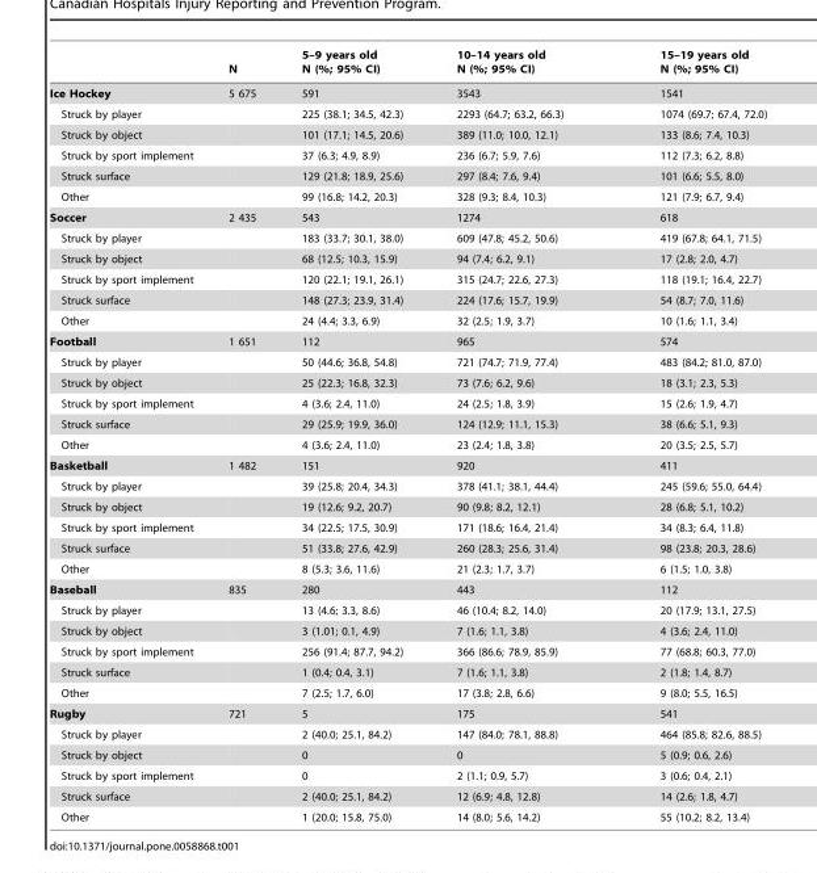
<table><thead><tr><td></td><td>N</td><td>5–9 years old N (%; 95% CI)</td><td>10–14 years old N (%; 95% CI)</td><td>15–19 years old N (%; 95% CI)</td></tr></thead><tbody><tr><td>Ice Hockey</td><td>5 675</td><td>591</td><td>3543</td><td>1541</td></tr><tr><td>Struck by player</td><td></td><td>225 (38.1; 34.5, 42.3)</td><td>2293 (64.7; 63.2, 66.3)</td><td>1074 (69.7; 67.4, 72.0)</td></tr><tr><td>Struck by object</td><td></td><td>101 (17.1; 14.5, 20.6)</td><td>389 (11.0; 10.0, 12.1)</td><td>133 (8.6; 7.4, 10.3)</td></tr><tr><td>Struck by sport implement</td><td></td><td>37 (6.3; 4.9, 8.9)</td><td>236 (6.7; 5.9, 7.6)</td><td>112 (7.3; 6.2, 8.8)</td></tr><tr><td>Struck surface</td><td></td><td>129 (21.8; 18.9, 25.6)</td><td>297 (8.4; 7.6, 9.4)</td><td>101 (6.6; 5.5, 8.0)</td></tr><tr><td>Other</td><td></td><td>99 (16.8; 14.2, 20.3)</td><td>328 (9.3; 8.4, 10.3)</td><td>121 (7.9; 6.7, 9.4)</td></tr><tr><td>Soccer</td><td>2 435</td><td>543</td><td>1274</td><td>618</td></tr><tr><td>Struck by player</td><td></td><td>183 (33.7; 30.1, 38.0)</td><td>609 (47.8; 45.2, 50.6)</td><td>419 (67.8; 64.1, 71.5)</td></tr><tr><td>Struck by object</td><td></td><td>68 (12.5; 10.3, 15.9)</td><td>94 (7.4; 6.2, 9.1)</td><td>17 (2.8; 2.0, 4.7)</td></tr><tr><td>Struck by sport implement</td><td></td><td>120 (22.1; 19.1, 26.1)</td><td>315 (24.7; 22.6, 27.3)</td><td>118 (19.1; 16.4, 22.7)</td></tr><tr><td>Struck surface</td><td></td><td>148 (27.3; 23.9, 31.4)</td><td>224 (17.6; 15.7, 19.9)</td><td>54 (8.7; 7.0, 11.6)</td></tr><tr><td>Other</td><td></td><td>24 (4.4; 3.3, 6.9)</td><td>32 (2.5; 1.9, 3.7)</td><td>10 (1.6; 1.1, 3.4)</td></tr><tr><td>Football</td><td>1 651</td><td>112</td><td>965</td><td>574</td></tr><tr><td>Struck by player</td><td></td><td>50 (44.6; 36.8, 54.8)</td><td>721 (74.7; 71.9, 77.4)</td><td>483 (84.2; 81.0, 87.0)</td></tr><tr><td>Struck by object</td><td></td><td>25 (22.3; 16.8, 32.3)</td><td>73 (7.6; 6.2, 9.6)</td><td>18 (3.1; 2.3, 5.3)</td></tr><tr><td>Struck by sport implement</td><td></td><td>4 (3.6; 2.4, 11.0)</td><td>24 (2.5; 1.8, 3.9)</td><td>15 (2.6; 1.9, 4.7)</td></tr><tr><td>Struck surface</td><td></td><td>29 (25.9; 19.9, 36.0)</td><td>124 (12.9; 11.1, 15.3)</td><td>38 (6.6; 5.1, 9.3)</td></tr><tr><td>Other</td><td></td><td>4 (3.6; 2.4, 11.0)</td><td>23 (2.4; 1.8, 3.8)</td><td>20 (3.5; 2.5, 5.7)</td></tr><tr><td>Basketball</td><td>1 482</td><td>151</td><td>920</td><td>411</td></tr><tr><td>Struck by player</td><td></td><td>39 (25.8; 20.4, 34.3)</td><td>378 (41.1; 38.1, 44.4)</td><td>245 (59.6; 55.0, 64.4)</td></tr><tr><td>Struck by object</td><td></td><td>19 (12.6; 9.2, 20.7)</td><td>90 (9.8; 8.2, 12.1)</td><td>28 (6.8; 5.1, 10.2)</td></tr><tr><td>Struck by sport implement</td><td></td><td>34 (22.5; 17.5, 30.9)</td><td>171 (18.6; 16.4, 21.4)</td><td>34 (8.3; 6.4, 11.8)</td></tr><tr><td>Struck surface</td><td></td><td>51 (33.8; 27.6, 42.9)</td><td>260 (28.3; 25.6, 31.4)</td><td>98 (23.8; 20.3, 28.6)</td></tr><tr><td>Other</td><td></td><td>8 (5.3; 3.6, 11.6)</td><td>21 (2.3; 1.7, 3.7)</td><td>6 (1.5; 1.0, 3.8)</td></tr><tr><td>Baseball</td><td>835</td><td>280</td><td>443</td><td>112</td></tr><tr><td>Struck by player</td><td></td><td>13 (4.6; 3.3, 8.6)</td><td>46 (10.4; 8.2, 14.0)</td><td>20 (17.9; 13.1, 27.5)</td></tr><tr><td>Struck by object</td><td></td><td>3 (1.01; 0.1, 4.9)</td><td>7 (1.6; 1.1, 3.8)</td><td>4 (3.6; 2.4, 11.0)</td></tr><tr><td>Struck by sport implement</td><td></td><td>256 (91.4; 87.7, 94.2)</td><td>366 (86.6; 78.9, 85.9)</td><td>77 (68.8; 60.3, 77.0)</td></tr><tr><td>Struck surface</td><td></td><td>1 (0.4; 0.4, 3.1)</td><td>7 (1.6; 1.1, 3.8)</td><td>2 (1.8; 1.4, 8.7)</td></tr><tr><td>Other</td><td></td><td>7 (2.5; 1.7, 6.0)</td><td>17 (3.8; 2.8, 6.6)</td><td>9 (8.0; 5.5, 16.5)</td></tr><tr><td>Rugby</td><td>721</td><td>5</td><td>175</td><td>541</td></tr><tr><td>Struck by player</td><td></td><td>2 (40.0; 25.1, 84.2)</td><td>147 (84.0; 78.1, 88.8)</td><td>464 (85.8; 82.6, 88.5)</td></tr><tr><td>Struck by object</td><td></td><td>0</td><td>0</td><td>5 (0.9; 0.6, 2.6)</td></tr><tr><td>Struck by sport implement</td><td></td><td>0</td><td>2 (1.1; 0.9, 5.7)</td><td>3 (0.6; 0.4, 2.1)</td></tr><tr><td>Struck surface</td><td></td><td>2 (40.0; 25.1, 84.2)</td><td>12 (6.9; 4.8, 12.8)</td><td>14 (2.6; 1.8, 4.7)</td></tr><tr><td>Other</td><td></td><td>1 (20.0; 15.8, 75.0)</td><td>14 (8.0; 5.6, 14.2)</td><td>55 (10.2; 8.2, 13.4)</td></tr></tbody></table>